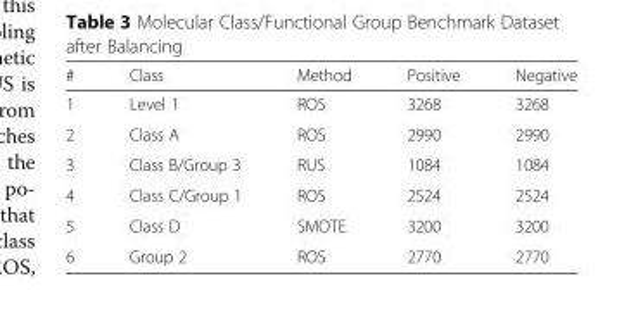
<table><thead><tr><td>#</td><td>Class</td><td>Method</td><td>Positive</td><td>Negative</td></tr></thead><tbody><tr><td>1</td><td>Level 1</td><td>ROS</td><td>3268</td><td>3268</td></tr><tr><td>2</td><td>Class A</td><td>ROS</td><td>2990</td><td>2990</td></tr><tr><td>3</td><td>Class B/Group 3</td><td>RUS</td><td>1084</td><td>1084</td></tr><tr><td>4</td><td>Class C/Group 1</td><td>ROS</td><td>2524</td><td>2524</td></tr><tr><td>5</td><td>Class D</td><td>SMOTE</td><td>3200</td><td>3200</td></tr><tr><td>6</td><td>Group 2</td><td>ROS</td><td>2770</td><td>2770</td></tr></tbody></table>